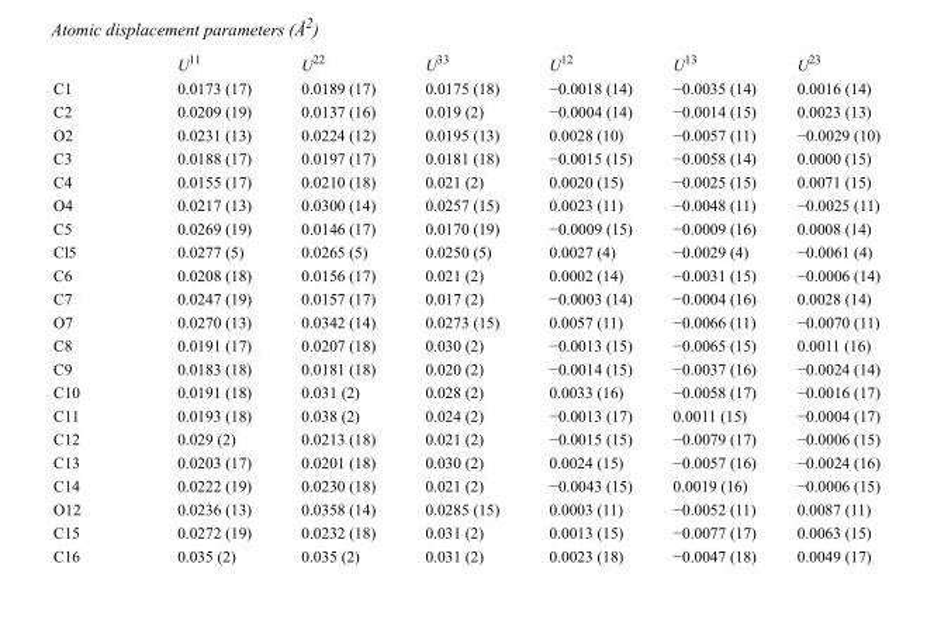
<table><thead><tr><td></td><td>U<sup>11</sup></td><td>U<sup>22</sup></td><td>U<sup>33</sup></td><td>U<sup>12</sup></td><td>U<sup>13</sup></td><td>U<sup>23</sup></td></tr></thead><tbody><tr><td>C1</td><td>0.0173 (17)</td><td>0.0189 (17)</td><td>0.0175 (18)</td><td>−0.0018 (14)</td><td>−0.0035 (14)</td><td>0.0016 (14)</td></tr><tr><td>C2</td><td>0.0209 (19)</td><td>0.0137 (16)</td><td>0.019 (2)</td><td>−0.0004 (14)</td><td>−0.0014 (15)</td><td>0.0023 (13)</td></tr><tr><td>O2</td><td>0.0231 (13)</td><td>0.0224 (12)</td><td>0.0195 (13)</td><td>0.0028 (10)</td><td>−0.0057 (11)</td><td>−0.0029 (10)</td></tr><tr><td>C3</td><td>0.0188 (17)</td><td>0.0197 (17)</td><td>0.0181 (18)</td><td>−0.0015 (15)</td><td>−0.0058 (14)</td><td>0.0000 (15)</td></tr><tr><td>C4</td><td>0.0155 (17)</td><td>0.0210 (18)</td><td>0.021 (2)</td><td>0.0020 (15)</td><td>−0.0025 (15)</td><td>0.0071 (15)</td></tr><tr><td>O4</td><td>0.0217 (13)</td><td>0.0300 (14)</td><td>0.0257 (15)</td><td>0.0023 (11)</td><td>−0.0048 (11)</td><td>−0.0025 (11)</td></tr><tr><td>C5</td><td>0.0269 (19)</td><td>0.0146 (17)</td><td>0.0170 (19)</td><td>−0.0009 (15)</td><td>−0.0009 (16)</td><td>0.0008 (14)</td></tr><tr><td>Cl5</td><td>0.0277 (5)</td><td>0.0265 (5)</td><td>0.0250 (5)</td><td>0.0027 (4)</td><td>−0.0029 (4)</td><td>−0.0061 (4)</td></tr><tr><td>C6</td><td>0.0208 (18)</td><td>0.0156 (17)</td><td>0.021 (2)</td><td>0.0002 (14)</td><td>−0.0031 (15)</td><td>−0.0006 (14)</td></tr><tr><td>C7</td><td>0.0247 (19)</td><td>0.0157 (17)</td><td>0.017 (2)</td><td>−0.0003 (14)</td><td>−0.0004 (16)</td><td>0.0028 (14)</td></tr><tr><td>O7</td><td>0.0270 (13)</td><td>0.0342 (14)</td><td>0.0273 (15)</td><td>0.0057 (11)</td><td>−0.0066 (11)</td><td>−0.0070 (11)</td></tr><tr><td>C8</td><td>0.0191 (17)</td><td>0.0207 (18)</td><td>0.030 (2)</td><td>−0.0013 (15)</td><td>−0.0065 (15)</td><td>0.0011 (16)</td></tr><tr><td>C9</td><td>0.0183 (18)</td><td>0.0181 (18)</td><td>0.020 (2)</td><td>−0.0014 (15)</td><td>−0.0037 (16)</td><td>−0.0024 (14)</td></tr><tr><td>C10</td><td>0.0191 (18)</td><td>0.031 (2)</td><td>0.028 (2)</td><td>0.0033 (16)</td><td>−0.0058 (17)</td><td>−0.0016 (17)</td></tr><tr><td>C11</td><td>0.0193 (18)</td><td>0.038 (2)</td><td>0.024 (2)</td><td>−0.0013 (17)</td><td>0.0011 (15)</td><td>−0.0004 (17)</td></tr><tr><td>C12</td><td>0.029 (2)</td><td>0.0213 (18)</td><td>0.021 (2)</td><td>−0.0015 (15)</td><td>−0.0079 (17)</td><td>−0.0006 (15)</td></tr><tr><td>C13</td><td>0.0203 (17)</td><td>0.0201 (18)</td><td>0.030 (2)</td><td>0.0024 (15)</td><td>−0.0057 (16)</td><td>−0.0024 (16)</td></tr><tr><td>C14</td><td>0.0222 (19)</td><td>0.0230 (18)</td><td>0.021 (2)</td><td>−0.0043 (15)</td><td>0.0019 (16)</td><td>−0.0006 (15)</td></tr><tr><td>O12</td><td>0.0236 (13)</td><td>0.0358 (14)</td><td>0.0285 (15)</td><td>0.0003 (11)</td><td>−0.0052 (11)</td><td>0.0087 (11)</td></tr><tr><td>C15</td><td>0.0272 (19)</td><td>0.0232 (18)</td><td>0.031 (2)</td><td>0.0013 (15)</td><td>−0.0077 (17)</td><td>0.0063 (15)</td></tr><tr><td>C16</td><td>0.035 (2)</td><td>0.035 (2)</td><td>0.031 (2)</td><td>0.0023 (18)</td><td>−0.0047 (18)</td><td>0.0049 (17)</td></tr></tbody></table>